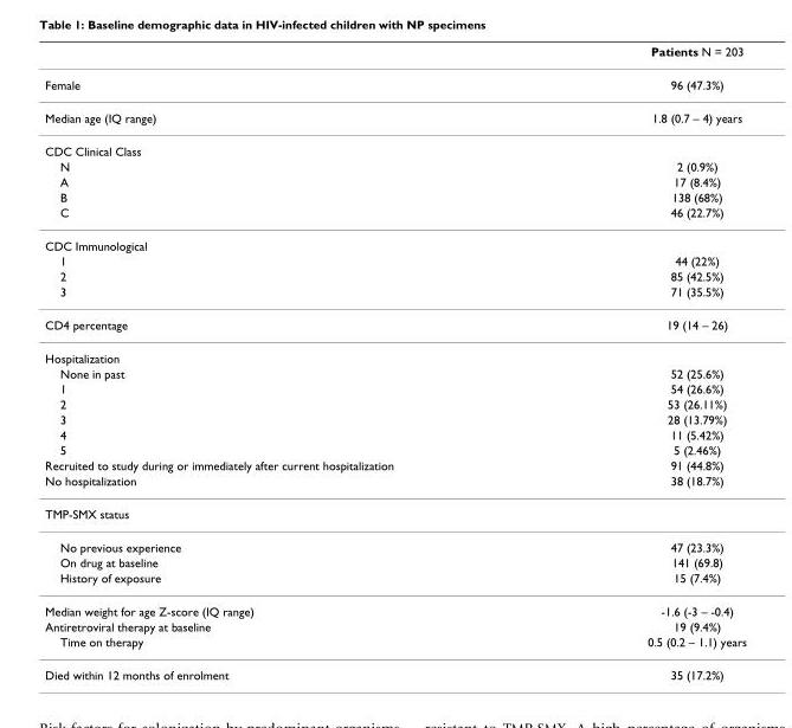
<table><thead><tr><td></td><td>Patients N = 203</td></tr></thead><tbody><tr><td>Female</td><td>96 (47.3%)</td></tr><tr><td>Median age (IQ range)</td><td>1.8 (0.7 – 4) years</td></tr><tr><td colspan="2">CDC Clinical Class</td></tr><tr><td>N</td><td>2 (0.9%)</td></tr><tr><td>A</td><td>17 (8.4%)</td></tr><tr><td>B</td><td>138 (68%)</td></tr><tr><td>C</td><td>46 (22.7%)</td></tr><tr><td colspan="2">CDC Immunological</td></tr><tr><td>1</td><td>44 (22%)</td></tr><tr><td>2</td><td>85 (42.5%)</td></tr><tr><td>3</td><td>71 (35.5%)</td></tr><tr><td>CD4 percentage</td><td>19 (14 – 26)</td></tr><tr><td colspan="2">Hospitalization</td></tr><tr><td>None in past</td><td>52 (25.6%)</td></tr><tr><td>1</td><td>54 (26.6%)</td></tr><tr><td>2</td><td>53 (26.11%)</td></tr><tr><td>3</td><td>28 (13.79%)</td></tr><tr><td>4</td><td>11 (5.42%)</td></tr><tr><td>5</td><td>5 (2.46%)</td></tr><tr><td>Recruited to study during or immediately after current hospitalization</td><td>91 (44.8%)</td></tr><tr><td>No hospitalization</td><td>38 (18.7%)</td></tr><tr><td colspan="2">TMP-SMX status</td></tr><tr><td>No previous experience</td><td>47 (23.3%)</td></tr><tr><td>On drug at baseline</td><td>141 (69.8)</td></tr><tr><td>History of exposure</td><td>15 (7.4%)</td></tr><tr><td>Median weight for age Z-score (IQ range)</td><td>-1.6 (-3 – -0.4)</td></tr><tr><td>Antiretroviral therapy at baseline</td><td>19 (9.4%)</td></tr><tr><td>Time on therapy</td><td>0.5 (0.2 – 1.1) years</td></tr><tr><td>Died within 12 months of enrolment</td><td>35 (17.2%)</td></tr></tbody></table>